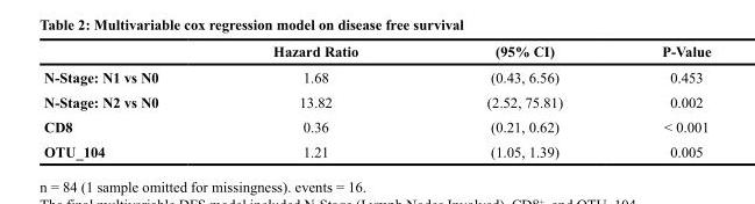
<table><thead><tr><td></td><td>Hazard Ratio</td><td>(95% CI)</td><td>P-Value</td></tr></thead><tbody><tr><td>N-Stage: N1 vs N0</td><td>1.68</td><td>(0.43, 6.56)</td><td>0.453</td></tr><tr><td>N-Stage: N2 vs N0</td><td>13.82</td><td>(2.52, 75.81)</td><td>0.002</td></tr><tr><td>CD8</td><td>0.36</td><td>(0.21, 0.62)</td><td>&lt; 0.001</td></tr><tr><td>OTU_104</td><td>1.21</td><td>(1.05, 1.39)</td><td>0.005</td></tr></tbody></table>